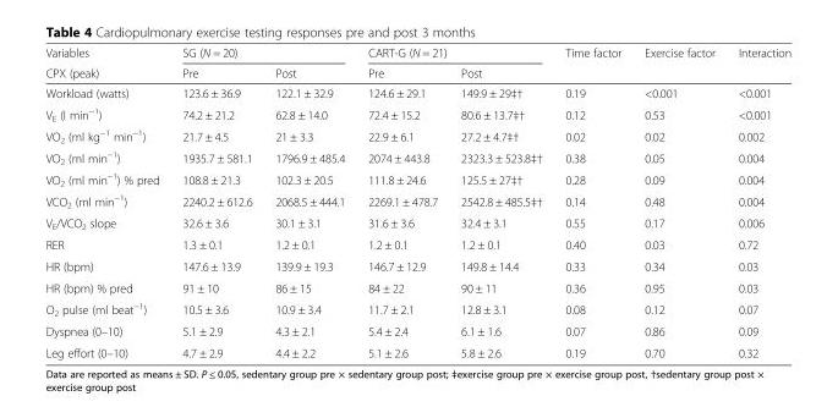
<table><thead><tr><td rowspan="2">Variables CPX (peak)</td><td colspan="2">SG (N = 20)</td><td colspan="2">CART-G (N = 21)</td><td rowspan="2">Time factor</td><td rowspan="2">Exercise factor</td><td rowspan="2">Interaction</td></tr><tr><td>Pre</td><td>Post</td><td>Pre</td><td>Post</td></tr></thead><tbody><tr><td>Workload (watts)</td><td>123.6 ± 36.9</td><td>122.1 ± 32.9</td><td>124.6 ± 29.1</td><td>149.9 ± 29‡†</td><td>0.19</td><td>&lt;0.001</td><td>&lt;0.001</td></tr><tr><td>VE (l min−1)</td><td>74.2 ± 21.2</td><td>62.8 ± 14.0</td><td>72.4 ± 15.2</td><td>80.6 ± 13.7‡†</td><td>0.12</td><td>0.53</td><td>&lt;0.001</td></tr><tr><td>VO2 (ml kg−1 min−1)</td><td>21.7 ± 4.5</td><td>21 ± 3.3</td><td>22.9 ± 6.1</td><td>27.2 ± 4.7‡†</td><td>0.02</td><td>0.02</td><td>0.002</td></tr><tr><td>VO2 (ml min−1)</td><td>1935.7 ± 581.1</td><td>1796.9 ± 485.4</td><td>2074 ± 443.8</td><td>2323.3 ± 523.8‡†</td><td>0.38</td><td>0.05</td><td>0.004</td></tr><tr><td>VO2 (ml min−1) % pred</td><td>108.8 ± 21.3</td><td>102.3 ± 20.5</td><td>111.8 ± 24.6</td><td>125.5 ± 27‡†</td><td>0.28</td><td>0.09</td><td>0.004</td></tr><tr><td>VCO2 (ml min−1)</td><td>2240.2 ± 612.6</td><td>2068.5 ± 444.1</td><td>2269.1 ± 478.7</td><td>2542.8 ± 485.5‡†</td><td>0.14</td><td>0.48</td><td>0.004</td></tr><tr><td>VE/VCO2 slope</td><td>32.6 ± 3.6</td><td>30.1 ± 3.1</td><td>31.6 ± 3.6</td><td>32.4 ± 3.1</td><td>0.55</td><td>0.17</td><td>0.006</td></tr><tr><td>RER</td><td>1.3 ± 0.1</td><td>1.2 ± 0.1</td><td>1.2 ± 0.1</td><td>1.2 ± 0.1</td><td>0.40</td><td>0.03</td><td>0.72</td></tr><tr><td>HR (bpm)</td><td>147.6 ± 13.9</td><td>139.9 ± 19.3</td><td>146.7 ± 12.9</td><td>149.8 ± 14.4</td><td>0.33</td><td>0.34</td><td>0.03</td></tr><tr><td>HR (bpm) % pred</td><td>91 ± 10</td><td>86 ± 15</td><td>84 ± 22</td><td>90 ± 11</td><td>0.36</td><td>0.95</td><td>0.03</td></tr><tr><td>O2 pulse (ml beat−1)</td><td>10.5 ± 3.6</td><td>10.9 ± 3.4</td><td>11.7 ± 2.1</td><td>12.8 ± 3.1</td><td>0.08</td><td>0.12</td><td>0.07</td></tr><tr><td>Dyspnea (0–10)</td><td>5.1 ± 2.9</td><td>4.3 ± 2.1</td><td>5.4 ± 2.4</td><td>6.1 ± 1.6</td><td>0.07</td><td>0.86</td><td>0.09</td></tr><tr><td>Leg effort (0–10)</td><td>4.7 ± 2.9</td><td>4.4 ± 2.2</td><td>5.1 ± 2.6</td><td>5.8 ± 2.6</td><td>0.19</td><td>0.70</td><td>0.32</td></tr></tbody></table>